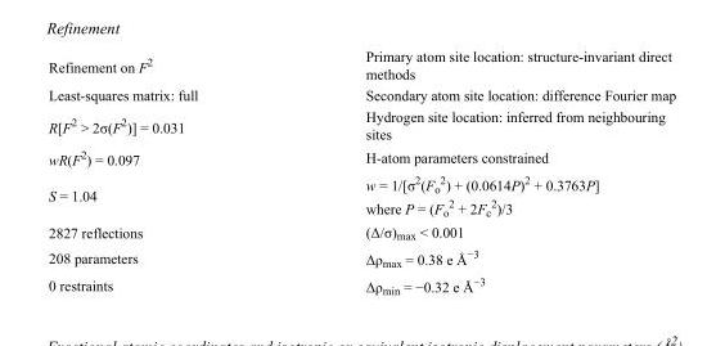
<table><tbody><tr><td>Refinement on F<sup>2</sup></td><td>Primary atom site location: structure-invariant direct methods</td></tr><tr><td>Least-squares matrix: full</td><td>Secondary atom site location: difference Fourier map</td></tr><tr><td>R[F<sup>2</sup> &gt; 2σ(F<sup>2</sup>)] = 0.031</td><td>Hydrogen site location: inferred from neighbouring sites</td></tr><tr><td>wR(F<sup>2</sup>) = 0.097</td><td>H-atom parameters constrained</td></tr><tr><td>S = 1.04</td><td>w = 1/[σ<sup>2</sup>(F<sub>o</sub> <sup>2</sup>) + (0.0614P)<sup>2</sup> + 0.3763P] where P = (F<sub>o</sub> <sup>2</sup> + 2F<sub>c</sub> <sup>2</sup>)/3</td></tr><tr><td>2827 reflections</td><td>(Δ/σ)<sub>max</sub> &lt; 0.001</td></tr><tr><td>208 parameters</td><td>Δρ<sub>max</sub> = 0.38 e Å<sup>−3</sup></td></tr><tr><td>0 restraints</td><td>Δρ<sub>min</sub> = −0.32 e Å<sup>−3</sup></td></tr></tbody></table>